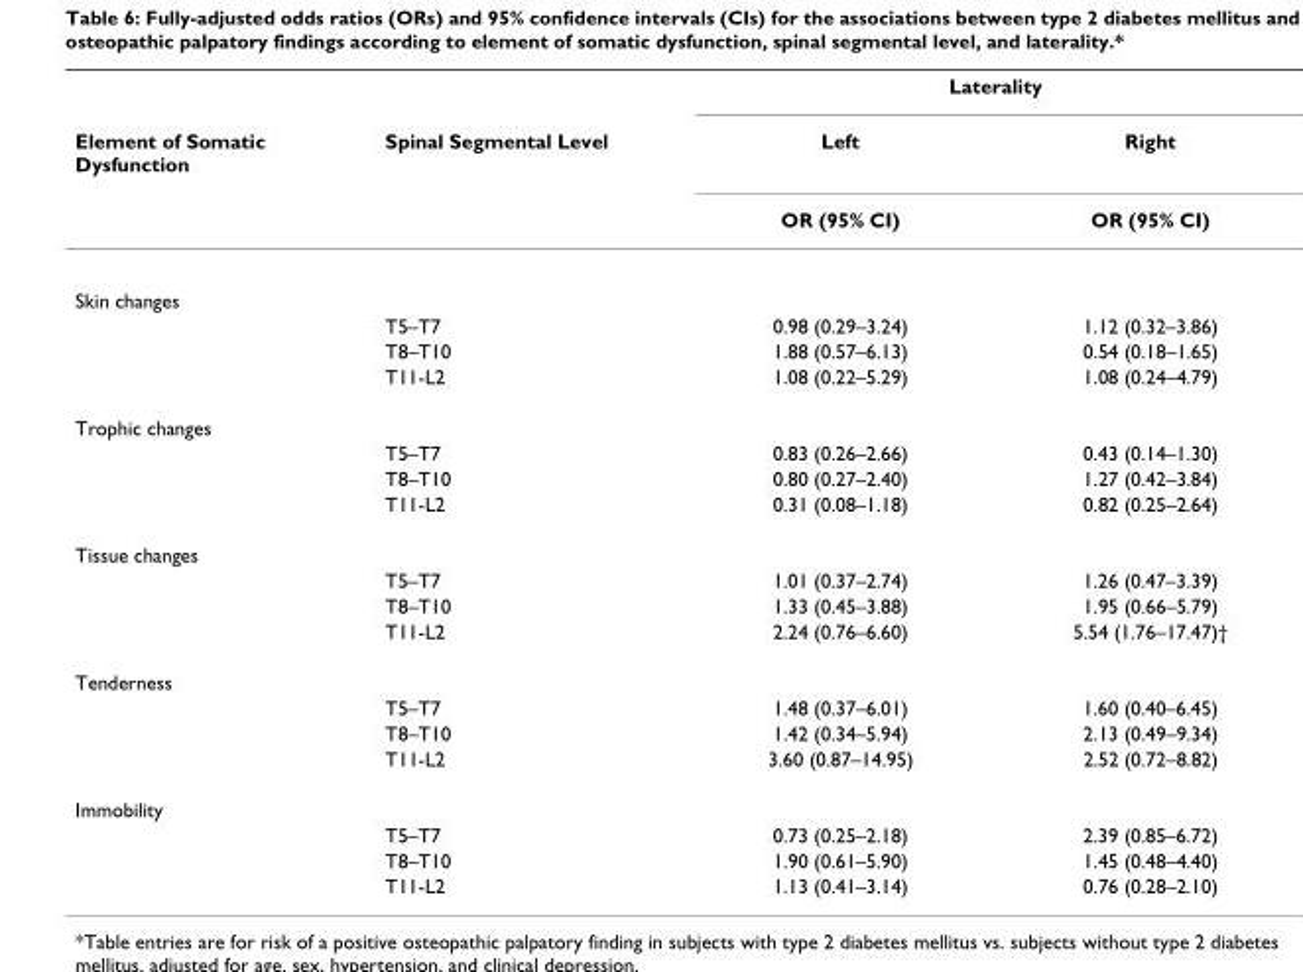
<table><thead><tr><td rowspan="3">Element of Somatic Dysfunction</td><td rowspan="3">Spinal Segmental Level</td><td colspan="2">Laterality</td></tr><tr><td rowspan="2">Left OR (95% CI)</td><td rowspan="2">Right OR (95% CI)</td></tr><tr></tr></thead><tbody><tr><td colspan="4">Skin changes</td></tr><tr><td></td><td>T5–T7</td><td>0.98 (0.29–3.24)</td><td>1.12 (0.32–3.86)</td></tr><tr><td></td><td>T8–T10</td><td>1.88 (0.57–6.13)</td><td>0.54 (0.18–1.65)</td></tr><tr><td></td><td>T11-L2</td><td>1.08 (0.22–5.29)</td><td>1.08 (0.24–4.79)</td></tr><tr><td colspan="4">Trophic changes</td></tr><tr><td></td><td>T5–T7</td><td>0.83 (0.26–2.66)</td><td>0.43 (0.14–1.30)</td></tr><tr><td></td><td>T8–T10</td><td>0.80 (0.27–2.40)</td><td>1.27 (0.42–3.84)</td></tr><tr><td></td><td>T11-L2</td><td>0.31 (0.08–1.18)</td><td>0.82 (0.25–2.64)</td></tr><tr><td colspan="4">Tissue changes</td></tr><tr><td></td><td>T5–T7</td><td>1.01 (0.37–2.74)</td><td>1.26 (0.47–3.39)</td></tr><tr><td></td><td>T8–T10</td><td>1.33 (0.45–3.88)</td><td>1.95 (0.66–5.79)</td></tr><tr><td></td><td>T11-L2</td><td>2.24 (0.76–6.60)</td><td>5.54 (1.76–17.47)†</td></tr><tr><td colspan="4">Tenderness</td></tr><tr><td></td><td>T5–T7</td><td>1.48 (0.37–6.01)</td><td>1.60 (0.40–6.45)</td></tr><tr><td></td><td>T8–T10</td><td>1.42 (0.34–5.94)</td><td>2.13 (0.49–9.34)</td></tr><tr><td></td><td>T11-L2</td><td>3.60 (0.87–14.95)</td><td>2.52 (0.72–8.82)</td></tr><tr><td colspan="4">Immobility</td></tr><tr><td></td><td>T5–T7</td><td>0.73 (0.25–2.18)</td><td>2.39 (0.85–6.72)</td></tr><tr><td></td><td>T8–T10</td><td>1.90 (0.61–5.90)</td><td>1.45 (0.48–4.40)</td></tr><tr><td></td><td>T11-L2</td><td>1.13 (0.41–3.14)</td><td>0.76 (0.28–2.10)</td></tr></tbody></table>